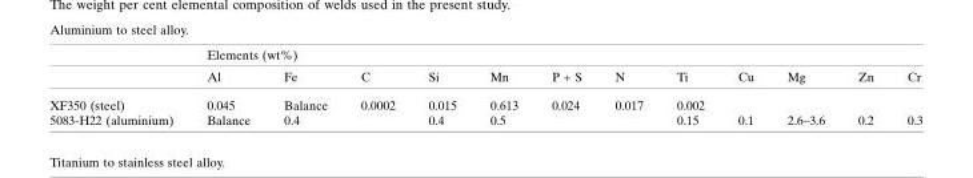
<table><thead><tr><td rowspan="2"></td><td colspan="12">Elements (wt%)</td></tr><tr><td>Al</td><td>Fe</td><td>C</td><td>Si</td><td>Mn</td><td>P + S</td><td>N</td><td>Ti</td><td>Cu</td><td>Mg</td><td>Zn</td><td>Cr</td></tr></thead><tbody><tr><td>XF350 (steel)</td><td>0.045</td><td>Balance</td><td>0.0002</td><td>0.015</td><td>0.613</td><td>0.024</td><td>0.017</td><td>0.002</td><td></td><td></td><td></td><td></td></tr><tr><td>5083-H22 (aluminium)</td><td>Balance</td><td>0.4</td><td></td><td>0.4</td><td>0.5</td><td></td><td></td><td>0.15</td><td>0.1</td><td>2.6–3.6</td><td>0.2</td><td>0.3</td></tr></tbody></table>